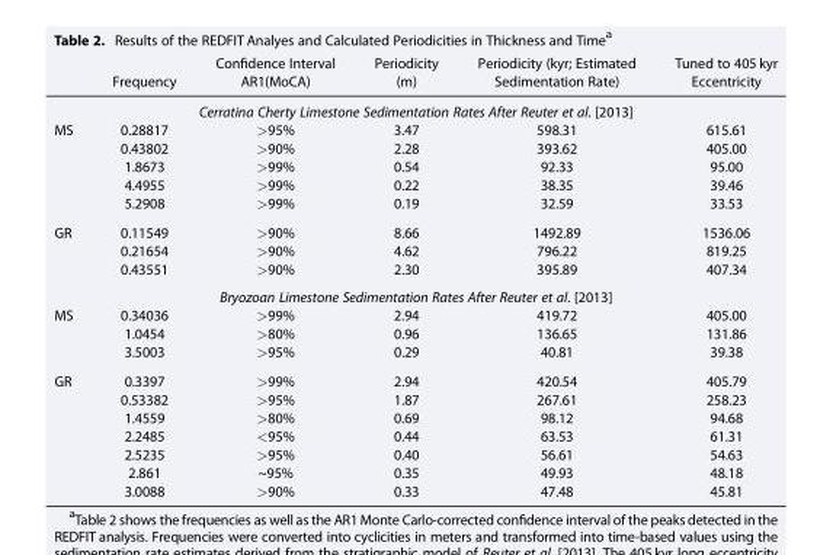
<table><thead><tr><td></td><td>Frequency</td><td>Confidence Interval AR1(MoCA)</td><td>Periodicity (m)</td><td>Periodicity (kyr; Estimated Sedimentation Rate)</td><td>Tuned to 405 kyr Eccentricity</td></tr></thead><tbody><tr><td colspan="6">Cerratina Cherty Limestone Sedimentation Rates After Reuter et al. [2013]</td></tr><tr><td rowspan="5">MS</td><td>0.28817</td><td>&gt;95%</td><td>3.47</td><td>598.31</td><td>615.61</td></tr><tr><td>0.43802</td><td>&gt;90%</td><td>2.28</td><td>393.62</td><td>405.00</td></tr><tr><td>1.8673</td><td>&gt;99%</td><td>0.54</td><td>92.33</td><td>95.00</td></tr><tr><td>4.4955</td><td>&gt;99%</td><td>0.22</td><td>38.35</td><td>39.46</td></tr><tr><td>5.2908</td><td>&gt;99%</td><td>0.19</td><td>32.59</td><td>33.53</td></tr><tr><td rowspan="3">GR</td><td>0.11549</td><td>&gt;90%</td><td>8.66</td><td>1492.89</td><td>1536.06</td></tr><tr><td>0.21654</td><td>&gt;90%</td><td>4.62</td><td>796.22</td><td>819.25</td></tr><tr><td>0.43551</td><td>&gt;90%</td><td>2.30</td><td>395.89</td><td>407.34</td></tr><tr><td colspan="6">Bryozoan Limestone Sedimentation Rates After Reuter et al. [2013]</td></tr><tr><td rowspan="3">MS</td><td>0.34036</td><td>&gt;99%</td><td>2.94</td><td>419.72</td><td>405.00</td></tr><tr><td>1.0454</td><td>&gt;80%</td><td>0.96</td><td>136.65</td><td>131.86</td></tr><tr><td>3.5003</td><td>&gt;95%</td><td>0.29</td><td>40.81</td><td>39.38</td></tr><tr><td rowspan="7">GR</td><td>0.3397</td><td>&gt;99%</td><td>2.94</td><td>420.54</td><td>405.79</td></tr><tr><td>0.53382</td><td>&gt;95%</td><td>1.87</td><td>267.61</td><td>258.23</td></tr><tr><td>1.4559</td><td>&gt;80%</td><td>0.69</td><td>98.12</td><td>94.68</td></tr><tr><td>2.2485</td><td>&lt;95%</td><td>0.44</td><td>63.53</td><td>61.31</td></tr><tr><td>2.5235</td><td>&gt;95%</td><td>0.40</td><td>56.61</td><td>54.63</td></tr><tr><td>2.861</td><td>~95%</td><td>0.35</td><td>49.93</td><td>48.18</td></tr><tr><td>3.0088</td><td>&gt;90%</td><td>0.33</td><td>47.48</td><td>45.81</td></tr></tbody></table>